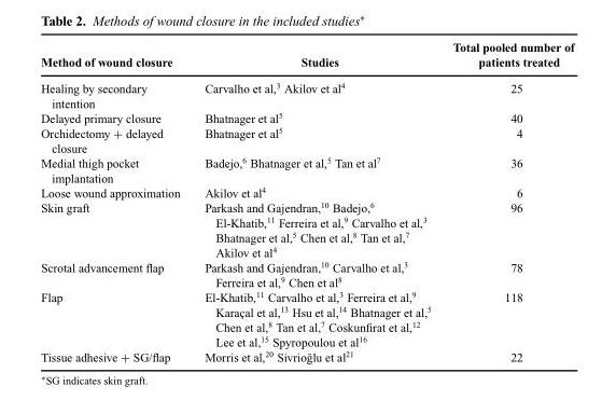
<table><thead><tr><td>Method of wound closure</td><td>Studies</td><td>Total pooled number of patients treated</td></tr></thead><tbody><tr><td>Healing by secondary intention</td><td>Carvalho et al,<sup>3</sup> Akilov et al<sup>4</sup></td><td>25</td></tr><tr><td>Delayed primary closure</td><td>Bhatnager et al<sup>5</sup></td><td>40</td></tr><tr><td>Orchidectomy + delayed closure</td><td>Bhatnager et al<sup>5</sup></td><td>4</td></tr><tr><td>Medial thigh pocket implantation</td><td>Badejo,<sup>6</sup> Bhatnager et al,<sup>5</sup> Tan et al<sup>7</sup></td><td>36</td></tr><tr><td>Loose wound approximation</td><td>Akilov et al<sup>4</sup></td><td>6</td></tr><tr><td>Skin graft</td><td>Parkash and Gajendran,<sup>10</sup> Badejo,<sup>6</sup> El-Khatib,<sup>11</sup> Ferreira et al,<sup>9</sup> Carvalho et al,<sup>3</sup> Bhatnager et al,<sup>5</sup> Chen et al,<sup>8</sup> Tan et al,<sup>7</sup> Akilov et al<sup>4</sup></td><td>96</td></tr><tr><td>Scrotal advancement flap</td><td>Parkash and Gajendran,<sup>10</sup> Carvalho et al,<sup>3</sup> Ferreira et al,<sup>9</sup> Chen et al<sup>8</sup></td><td>78</td></tr><tr><td>Flap</td><td>El-Khatib,11 Carvalho et al,3 Ferreira et al,9 Karac¸al et al,13 Hsu et al,14 Bhatnager et al,5 Chen et al,8 Tan et al,7 Coskunfirat et al,12 Lee et al,15 Spyropoulou et al16</td><td>118</td></tr><tr><td>Tissue adhesive + SG/flap</td><td>Morris et al,20 Sivrio˘glu et al21</td><td>22</td></tr></tbody></table>